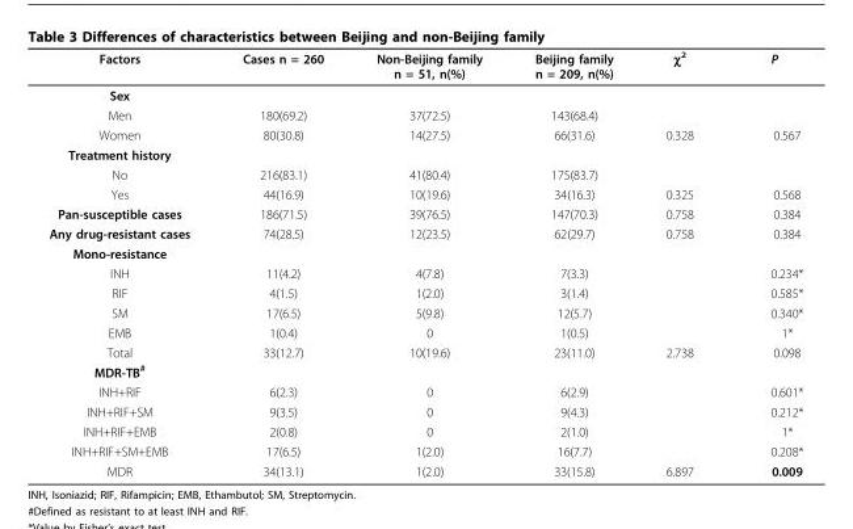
<table><thead><tr><td>Factors</td><td>Cases n = 260</td><td>Non-Beijing family n = 51, n(%)</td><td>Beijing family n = 209, n(%)</td><td>χ<sup>2</sup></td><td>P</td></tr></thead><tbody><tr><td colspan="6">Sex</td></tr><tr><td>Men</td><td>180(69.2)</td><td>37(72.5)</td><td>143(68.4)</td><td></td><td></td></tr><tr><td>Women</td><td>80(30.8)</td><td>14(27.5)</td><td>66(31.6)</td><td>0.328</td><td>0.567</td></tr><tr><td colspan="6">Treatment history</td></tr><tr><td>No</td><td>216(83.1)</td><td>41(80.4)</td><td>175(83.7)</td><td></td><td></td></tr><tr><td>Yes</td><td>44(16.9)</td><td>10(19.6)</td><td>34(16.3)</td><td>0.325</td><td>0.568</td></tr><tr><td>Pan-susceptible cases</td><td>186(71.5)</td><td>39(76.5)</td><td>147(70.3)</td><td>0.758</td><td>0.384</td></tr><tr><td>Any drug-resistant cases</td><td>74(28.5)</td><td>12(23.5)</td><td>62(29.7)</td><td>0.758</td><td>0.384</td></tr><tr><td colspan="6">Mono-resistance</td></tr><tr><td>INH</td><td>11(4.2)</td><td>4(7.8)</td><td>7(3.3)</td><td></td><td>0.234*</td></tr><tr><td>RIF</td><td>4(1.5)</td><td>1(2.0)</td><td>3(1.4)</td><td></td><td>0.585*</td></tr><tr><td>SM</td><td>17(6.5)</td><td>5(9.8)</td><td>12(5.7)</td><td></td><td>0.340*</td></tr><tr><td>EMB</td><td>1(0.4)</td><td>0</td><td>1(0.5)</td><td></td><td>1*</td></tr><tr><td>Total</td><td>33(12.7)</td><td>10(19.6)</td><td>23(11.0)</td><td>2.738</td><td>0.098</td></tr><tr><td colspan="6">MDR-TB<sup>#</sup></td></tr><tr><td>INH+RIF</td><td>6(2.3)</td><td>0</td><td>6(2.9)</td><td></td><td>0.601*</td></tr><tr><td>INH+RIF+SM</td><td>9(3.5)</td><td>0</td><td>9(4.3)</td><td></td><td>0.212*</td></tr><tr><td>INH+RIF+EMB</td><td>2(0.8)</td><td>0</td><td>2(1.0)</td><td></td><td>1*</td></tr><tr><td>INH+RIF+SM+EMB</td><td>17(6.5)</td><td>1(2.0)</td><td>16(7.7)</td><td></td><td>0.208*</td></tr><tr><td>MDR</td><td>34(13.1)</td><td>1(2.0)</td><td>33(15.8)</td><td>6.897</td><td>0.009</td></tr></tbody></table>